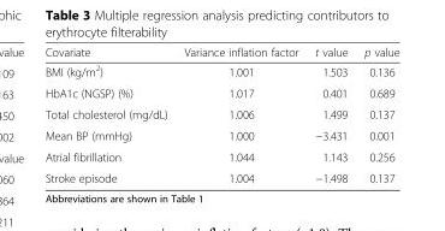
<table><thead><tr><td>Covariate</td><td>Variance inflation factor</td><td>t value</td><td>p value</td></tr></thead><tbody><tr><td>BMI (kg/m<sup>2</sup>)</td><td>1.001</td><td>1.503</td><td>0.136</td></tr><tr><td>HbA1c (NGSP) (%)</td><td>1.017</td><td>0.401</td><td>0.689</td></tr><tr><td>Total cholesterol (mg/dL)</td><td>1.006</td><td>1.499</td><td>0.137</td></tr><tr><td>Mean BP (mmHg)</td><td>1.000</td><td>−3.431</td><td>0.001</td></tr><tr><td>Atrial fibrillation</td><td>1.044</td><td>1.143</td><td>0.256</td></tr><tr><td>Stroke episode</td><td>1.004</td><td>−1.498</td><td>0.137</td></tr></tbody></table>